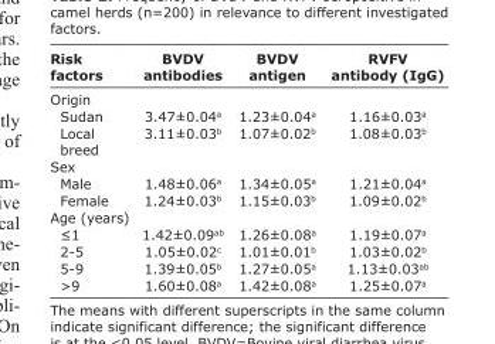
<table><thead><tr><td>Risk factors</td><td>BVDV antibodies</td><td>BVDV antigen</td><td>RVFV antibody (IgG)</td></tr></thead><tbody><tr><td colspan="4">Origin</td></tr><tr><td>Sudan</td><td>3.47±0.04<sup>a</sup></td><td>1.23±0.04<sup>a</sup></td><td>1.16±0.03<sup>a</sup></td></tr><tr><td>Local breed</td><td>3.11±0.03<sup>b</sup></td><td>1.07±0.02<sup>b</sup></td><td>1.08±0.03<sup>b</sup></td></tr><tr><td colspan="4">Sex</td></tr><tr><td>Male</td><td>1.48±0.06<sup>a</sup></td><td>1.34±0.05<sup>a</sup></td><td>1.21±0.04<sup>a</sup></td></tr><tr><td>Female</td><td>1.24±0.03<sup>b</sup></td><td>1.15±0.03<sup>b</sup></td><td>1.09±0.02<sup>b</sup></td></tr><tr><td colspan="4">Age (years)</td></tr><tr><td>≤1</td><td>1.42±0.09<sup>ab</sup></td><td>1.26±0.08<sup>a</sup></td><td>1.19±0.07<sup>a</sup></td></tr><tr><td>2-5</td><td>1.05±0.02<sup>c</sup></td><td>1.01±0.01<sup>b</sup></td><td>1.03±0.02<sup>b</sup></td></tr><tr><td>5-9</td><td>1.39±0.05<sup>b</sup></td><td>1.27±0.05<sup>a</sup></td><td>1.13±0.03<sup>ab</sup></td></tr><tr><td>&gt;9</td><td>1.60±0.08<sup>a</sup></td><td>1.42±0.08<sup>a</sup></td><td>1.25±0.07<sup>a</sup></td></tr></tbody></table>